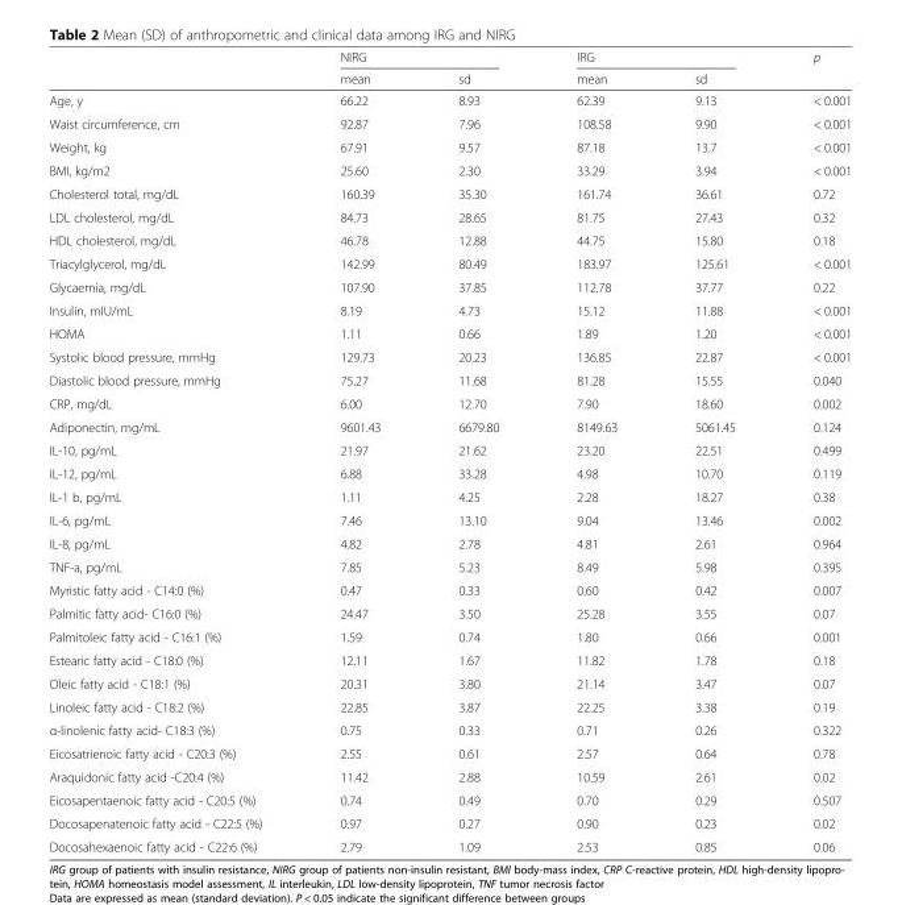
<table><thead><tr><td rowspan="2"></td><td colspan="2">NIRG</td><td colspan="2">IRG</td><td rowspan="2">p</td></tr><tr><td>mean</td><td>sd</td><td>mean</td><td>sd</td></tr></thead><tbody><tr><td>Age, y</td><td>66.22</td><td>8.93</td><td>62.39</td><td>9.13</td><td>&lt; 0.001</td></tr><tr><td>Waist circumference, cm</td><td>92.87</td><td>7.96</td><td>108.58</td><td>9.90</td><td>&lt; 0.001</td></tr><tr><td>Weight, kg</td><td>67.91</td><td>9.57</td><td>87.18</td><td>13.7</td><td>&lt; 0.001</td></tr><tr><td>BMI, kg/m2</td><td>25.60</td><td>2.30</td><td>33.29</td><td>3.94</td><td>&lt; 0.001</td></tr><tr><td>Cholesterol total, mg/dL</td><td>160.39</td><td>35.30</td><td>161.74</td><td>36.61</td><td>0.72</td></tr><tr><td>LDL cholesterol, mg/dL</td><td>84.73</td><td>28.65</td><td>81.75</td><td>27.43</td><td>0.32</td></tr><tr><td>HDL cholesterol, mg/dL</td><td>46.78</td><td>12.88</td><td>44.75</td><td>15.80</td><td>0.18</td></tr><tr><td>Triacylglycerol, mg/dL</td><td>142.99</td><td>80.49</td><td>183.97</td><td>125.61</td><td>&lt; 0.001</td></tr><tr><td>Glycaemia, mg/dL</td><td>107.90</td><td>37.85</td><td>112.78</td><td>37.77</td><td>0.22</td></tr><tr><td>Insulin, mIU/mL</td><td>8.19</td><td>4.73</td><td>15.12</td><td>11.88</td><td>&lt; 0.001</td></tr><tr><td>HOMA</td><td>1.11</td><td>0.66</td><td>1.89</td><td>1.20</td><td>&lt; 0.001</td></tr><tr><td>Systolic blood pressure, mmHg</td><td>129.73</td><td>20.23</td><td>136.85</td><td>22.87</td><td>&lt; 0.001</td></tr><tr><td>Diastolic blood pressure, mmHg</td><td>75.27</td><td>11.68</td><td>81.28</td><td>15.55</td><td>0.040</td></tr><tr><td>CRP, mg/dL</td><td>6.00</td><td>12.70</td><td>7.90</td><td>18.60</td><td>0.002</td></tr><tr><td>Adiponectin, mg/mL</td><td>9601.43</td><td>6679.80</td><td>8149.63</td><td>5061.45</td><td>0.124</td></tr><tr><td>IL-10, pg/mL</td><td>21.97</td><td>21.62</td><td>23.20</td><td>22.51</td><td>0.499</td></tr><tr><td>IL-12, pg/mL</td><td>6.88</td><td>33.28</td><td>4.98</td><td>10.70</td><td>0.119</td></tr><tr><td>IL-1 b, pg/mL</td><td>1.11</td><td>4.25</td><td>2.28</td><td>18.27</td><td>0.38</td></tr><tr><td>IL-6, pg/mL</td><td>7.46</td><td>13.10</td><td>9.04</td><td>13.46</td><td>0.002</td></tr><tr><td>IL-8, pg/mL</td><td>4.82</td><td>2.78</td><td>4.81</td><td>2.61</td><td>0.964</td></tr><tr><td>TNF-a, pg/mL</td><td>7.85</td><td>5.23</td><td>8.49</td><td>5.98</td><td>0.395</td></tr><tr><td>Myristic fatty acid - C14:0 (%)</td><td>0.47</td><td>0.33</td><td>0.60</td><td>0.42</td><td>0.007</td></tr><tr><td>Palmitic fatty acid- C16:0 (%)</td><td>24.47</td><td>3.50</td><td>25.28</td><td>3.55</td><td>0.07</td></tr><tr><td>Palmitoleic fatty acid - C16:1 (%)</td><td>1.59</td><td>0.74</td><td>1.80</td><td>0.66</td><td>0.001</td></tr><tr><td>Estearic fatty acid - C18:0 (%)</td><td>12.11</td><td>1.67</td><td>11.82</td><td>1.78</td><td>0.18</td></tr><tr><td>Oleic fatty acid - C18:1 (%)</td><td>20.31</td><td>3.80</td><td>21.14</td><td>3.47</td><td>0.07</td></tr><tr><td>Linoleic fatty acid - C18:2 (%)</td><td>22.85</td><td>3.87</td><td>22.25</td><td>3.38</td><td>0.19</td></tr><tr><td>α-linolenic fatty acid- C18:3 (%)</td><td>0.75</td><td>0.33</td><td>0.71</td><td>0.26</td><td>0.322</td></tr><tr><td>Eicosatrienoic fatty acid - C20:3 (%)</td><td>2.55</td><td>0.61</td><td>2.57</td><td>0.64</td><td>0.78</td></tr><tr><td>Araquidonic fatty acid -C20:4 (%)</td><td>11.42</td><td>2.88</td><td>10.59</td><td>2.61</td><td>0.02</td></tr><tr><td>Eicosapentaenoic fatty acid - C20:5 (%)</td><td>0.74</td><td>0.49</td><td>0.70</td><td>0.29</td><td>0.507</td></tr><tr><td>Docosapenatenoic fatty acid - C22:5 (%)</td><td>0.97</td><td>0.27</td><td>0.90</td><td>0.23</td><td>0.02</td></tr><tr><td>Docosahexaenoic fatty acid - C22:6 (%)</td><td>2.79</td><td>1.09</td><td>2.53</td><td>0.85</td><td>0.06</td></tr></tbody></table>